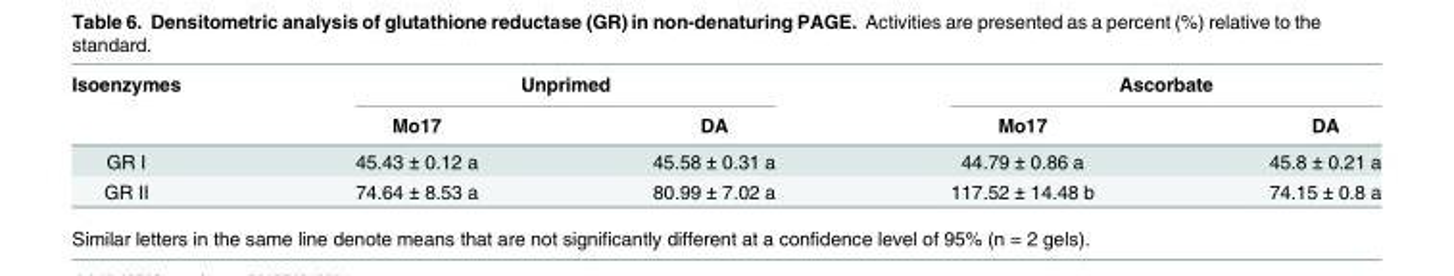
<table><thead><tr><td rowspan="2">Isoenzymes</td><td colspan="2">Unprimed</td><td colspan="2">Ascorbate</td></tr><tr><td>Mo17</td><td>DA</td><td>Mo17</td><td>DA</td></tr></thead><tbody><tr><td>GR I</td><td>45.43 ± 0.12 a</td><td>45.58 ± 0.31 a</td><td>44.79 ± 0.86 a</td><td>45.8 ± 0.21 a</td></tr><tr><td>GR II</td><td>74.64 ± 8.53 a</td><td>80.99 ± 7.02 a</td><td>117.52 ± 14.48 b</td><td>74.15 ± 0.8 a</td></tr></tbody></table>